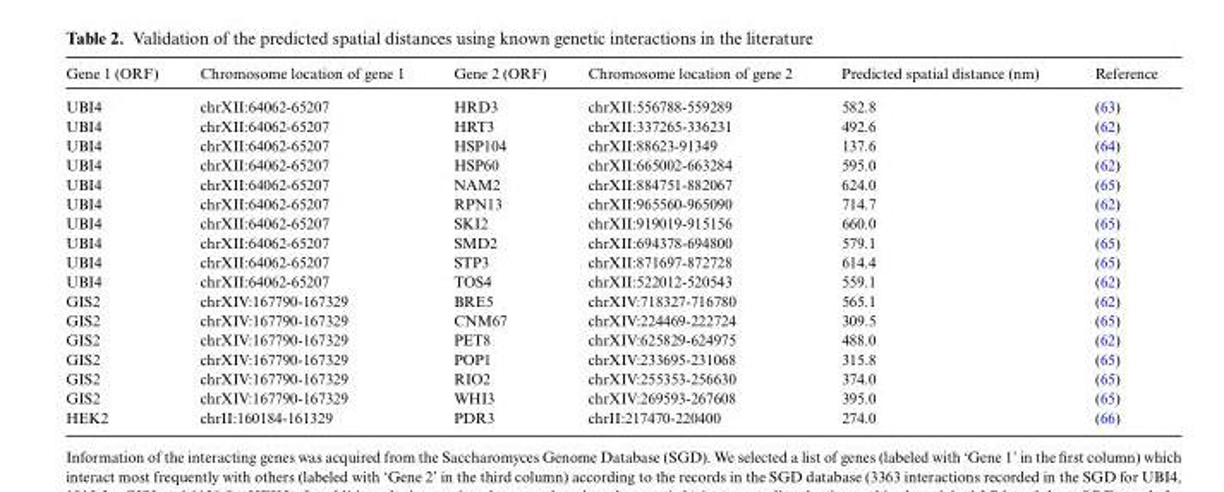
<table><thead><tr><td>Gene 1 (ORF)</td><td>Chromosome location of gene 1</td><td>Gene 2 (ORF)</td><td>Chromosome location of gene 2</td><td>Predicted spatial distance (nm)</td><td>Reference</td></tr></thead><tbody><tr><td>UBI4</td><td>chrXII:64062-65207</td><td>HRD3</td><td>chrXII:556788-559289</td><td>582.8</td><td>(63)</td></tr><tr><td>UBI4</td><td>chrXII:64062-65207</td><td>HRT3</td><td>chrXII:337265-336231</td><td>492.6</td><td>(62)</td></tr><tr><td>UBI4</td><td>chrXII:64062-65207</td><td>HSP104</td><td>chrXII:88623-91349</td><td>137.6</td><td>(64)</td></tr><tr><td>UBI4</td><td>chrXII:64062-65207</td><td>HSP60</td><td>chrXII:665002-663284</td><td>595.0</td><td>(62)</td></tr><tr><td>UBI4</td><td>chrXII:64062-65207</td><td>NAM2</td><td>chrXII:884751-882067</td><td>624.0</td><td>(65)</td></tr><tr><td>UBI4</td><td>chrXII:64062-65207</td><td>RPN13</td><td>chrXII:965560-965090</td><td>714.7</td><td>(62)</td></tr><tr><td>UBI4</td><td>chrXII:64062-65207</td><td>SKI2</td><td>chrXII:919019-915156</td><td>660.0</td><td>(65)</td></tr><tr><td>UBI4</td><td>chrXII:64062-65207</td><td>SMD2</td><td>chrXII:694378-694800</td><td>579.1</td><td>(65)</td></tr><tr><td>UBI4</td><td>chrXII:64062-65207</td><td>STP3</td><td>chrXII:871697-872728</td><td>614.4</td><td>(65)</td></tr><tr><td>UBI4</td><td>chrXII:64062-65207</td><td>TOS4</td><td>chrXII:522012-520543</td><td>559.1</td><td>(62)</td></tr><tr><td>GIS2</td><td>chrXIV:167790-167329</td><td>BRE5</td><td>chrXIV:718327-716780</td><td>565.1</td><td>(62)</td></tr><tr><td>GIS2</td><td>chrXIV:167790-167329</td><td>CNM67</td><td>chrXIV:224469-222724</td><td>309.5</td><td>(65)</td></tr><tr><td>GIS2</td><td>chrXIV:167790-167329</td><td>PET8</td><td>chrXIV:625829-624975</td><td>488.0</td><td>(62)</td></tr><tr><td>GIS2</td><td>chrXIV:167790-167329</td><td>POP1</td><td>chrXIV:233695-231068</td><td>315.8</td><td>(65)</td></tr><tr><td>GIS2</td><td>chrXIV:167790-167329</td><td>RIO2</td><td>chrXIV:255353-256630</td><td>374.0</td><td>(65)</td></tr><tr><td>GIS2</td><td>chrXIV:167790-167329</td><td>WHI3</td><td>chrXIV:269593-267608</td><td>395.0</td><td>(65)</td></tr><tr><td>HEK2</td><td>chrII:160184-161329</td><td>PDR3</td><td>chrII:217470-220400</td><td>274.0</td><td>(66)</td></tr></tbody></table>